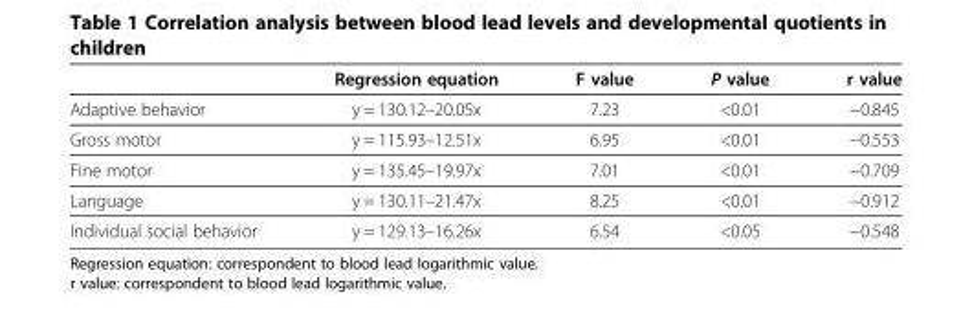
<table><thead><tr><td></td><td>Regression equation</td><td>F value</td><td>P value</td><td>r value</td></tr></thead><tbody><tr><td>Adaptive behavior</td><td>y = 130.12–20.05x</td><td>7.23</td><td>&lt;0.01</td><td>−0.845</td></tr><tr><td>Gross motor</td><td>y = 115.93–12.51x</td><td>6.95</td><td>&lt;0.01</td><td>−0.553</td></tr><tr><td>Fine motor</td><td>y = 135.45–19.97x</td><td>7.01</td><td>&lt;0.01</td><td>−0.709</td></tr><tr><td>Language</td><td>y = 130.11–21.47x</td><td>8.25</td><td>&lt;0.01</td><td>−0.912</td></tr><tr><td>Individual social behavior</td><td>y = 129.13–16.26x</td><td>6.54</td><td>&lt;0.05</td><td>−0.548</td></tr></tbody></table>